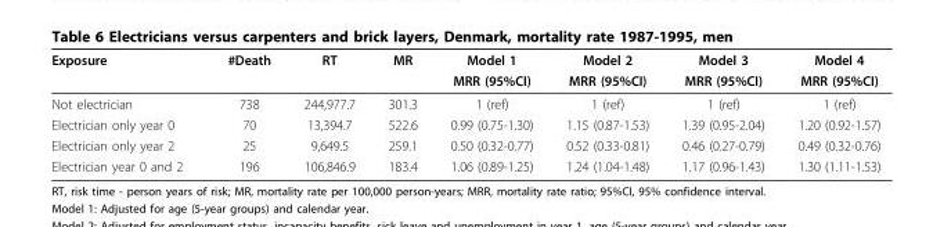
<table><thead><tr><td rowspan="2">Exposure</td><td rowspan="2">#Death</td><td rowspan="2">RT</td><td rowspan="2">MR</td><td rowspan="2">Model 1 MRR (95%CI)</td><td rowspan="2">Model 2 MRR (95%CI)</td><td rowspan="2">Model 3 MRR (95%CI)</td><td rowspan="2">Model 4 MRR (95%CI)</td></tr><tr></tr></thead><tbody><tr><td>Not electrician</td><td>738</td><td>244,977.7</td><td>301.3</td><td>1 (ref)</td><td>1 (ref)</td><td>1 (ref)</td><td>1 (ref)</td></tr><tr><td>Electrician only year 0</td><td>70</td><td>13,394.7</td><td>522.6</td><td>0.99 (0.75-1.30)</td><td>1.15 (0.87-1.53)</td><td>1.39 (0.95-2.04)</td><td>1.20 (0.92-1.57)</td></tr><tr><td>Electrician only year 2</td><td>25</td><td>9,649.5</td><td>259.1</td><td>0.50 (0.32-0.77)</td><td>0.52 (0.33-0.81)</td><td>0.46 (0.27-0.79)</td><td>0.49 (0.32-0.76)</td></tr><tr><td>Electrician year 0 and 2</td><td>196</td><td>106,846.9</td><td>183.4</td><td>1.06 (0.89-1.25)</td><td>1.24 (1.04-1.48)</td><td>1.17 (0.96-1.43)</td><td>1.30 (1.11-1.53)</td></tr></tbody></table>